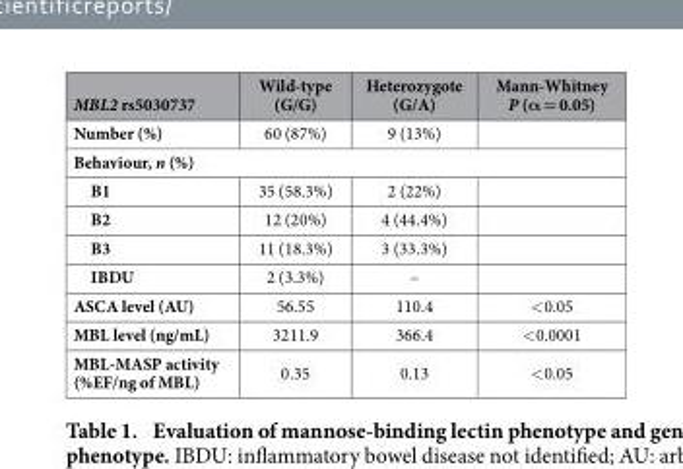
<table><thead><tr><td>MBL2 rs5030737</td><td>Wild-type (G/G)</td><td>Heterozygote (G/A)</td><td>Mann-Whitney P (α = 0.05)</td></tr></thead><tbody><tr><td>Number (%)</td><td>60 (87%)</td><td>9 (13%)</td><td></td></tr><tr><td colspan="4">Behaviour, n (%)</td></tr><tr><td>B1</td><td>35 (58.3%)</td><td>2 (22%)</td><td></td></tr><tr><td>B2</td><td>12 (20%)</td><td>4 (44.4%)</td><td></td></tr><tr><td>B3</td><td>11 (18.3%)</td><td>3 (33.3%)</td><td></td></tr><tr><td>IBDU</td><td>2 (3.3%)</td><td>–</td><td></td></tr><tr><td>ASCA level (AU)</td><td>56.55</td><td>110.4</td><td>&lt; 0.05</td></tr><tr><td>MBL level (ng/mL)</td><td>3211.9</td><td>366.4</td><td>&lt; 0.0001</td></tr><tr><td>MBL-MASP activity (%EF/ng of MBL)</td><td>0.35</td><td>0.13</td><td>&lt; 0.05</td></tr></tbody></table>